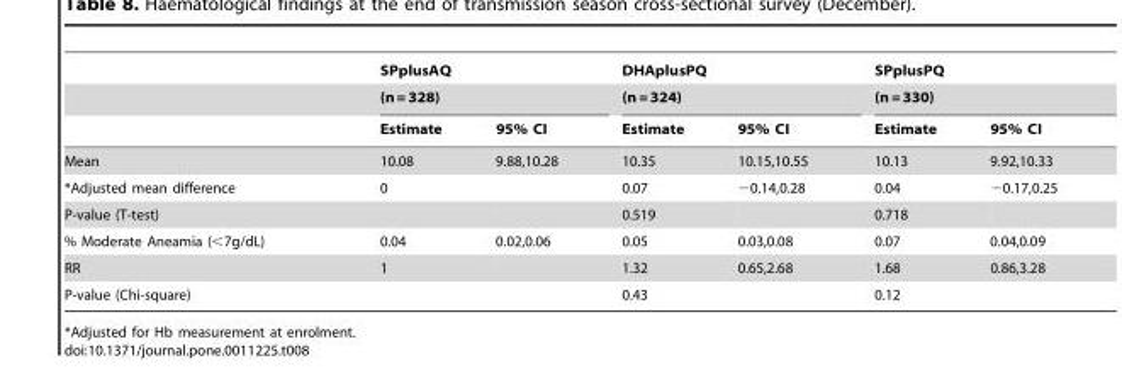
<table><thead><tr><td rowspan="3"></td><td rowspan="2" colspan="2">SPplusAQ (n = 328)</td><td rowspan="2" colspan="2">DHAplusPQ (n = 324)</td><td rowspan="2" colspan="2">SPplusPQ (n = 330)</td></tr><tr></tr><tr><td>Estimate</td><td>95% CI</td><td>Estimate</td><td>95% CI</td><td>Estimate</td><td>95% CI</td></tr></thead><tbody><tr><td>Mean</td><td>10.08</td><td>9.88,10.28</td><td>10.35</td><td>10.15,10.55</td><td>10.13</td><td>9.92,10.33</td></tr><tr><td>*Adjusted mean difference</td><td>0</td><td></td><td>0.07</td><td>−0.14,0.28</td><td>0.04</td><td>−0.17,0.25</td></tr><tr><td>P-value (T-test)</td><td></td><td></td><td>0.519</td><td></td><td>0.718</td><td></td></tr><tr><td>% Moderate Aneamia (&lt;7g/dL)</td><td>0.04</td><td>0.02,0.06</td><td>0.05</td><td>0.03,0.08</td><td>0.07</td><td>0.04,0.09</td></tr><tr><td>RR</td><td>1</td><td></td><td>1.32</td><td>0.65,2.68</td><td>1.68</td><td>0.86,3.28</td></tr><tr><td>P-value (Chi-square)</td><td></td><td></td><td>0.43</td><td></td><td>0.12</td><td></td></tr></tbody></table>